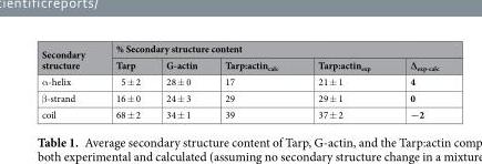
<table><thead><tr><td rowspan="2">Secondary structure</td><td colspan="5">% Secondary structure content</td></tr><tr><td>Tarp</td><td>G-actin</td><td>Tarp:actin<sub>calc</sub></td><td>Tarp:actin<sub>exp</sub></td><td>∆<sub>exp-calc</sub></td></tr></thead><tbody><tr><td>α-helix</td><td>5 ± 2</td><td>28 ± 0</td><td>17</td><td>21 ± 1</td><td>4</td></tr><tr><td>β-strand</td><td>16 ± 0</td><td>24 ± 3</td><td>29</td><td>29 ± 1</td><td>0</td></tr><tr><td>coil</td><td>68 ± 2</td><td>34 ± 1</td><td>39</td><td>37 ± 2</td><td>−2</td></tr></tbody></table>